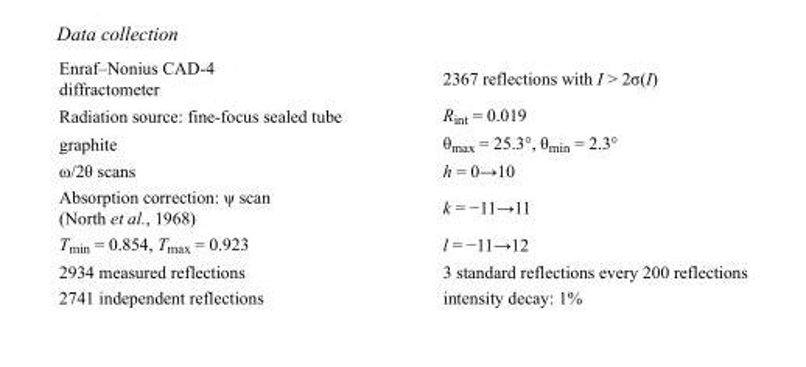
<table><tbody><tr><td>Enraf–Nonius CAD-4 diffractometer</td><td>2367 reflections with I &gt; 2σ(I)</td></tr><tr><td>Radiation source: fine-focus sealed tube</td><td>R<sub>int</sub> = 0.019</td></tr><tr><td>graphite</td><td>θ<sub>max</sub> = 25.3°, θ<sub>min</sub> = 2.3°</td></tr><tr><td>ω/2θ scans</td><td>h = 0→10</td></tr><tr><td>Absorption correction: ψ scan (North et al., 1968)</td><td>k = −11→11</td></tr><tr><td>T<sub>min</sub> = 0.854, T<sub>max</sub> = 0.923</td><td>l = −11→12</td></tr><tr><td>2934 measured reflections</td><td>3 standard reflections every 200 reflections</td></tr><tr><td>2741 independent reflections</td><td>intensity decay: 1%</td></tr></tbody></table>